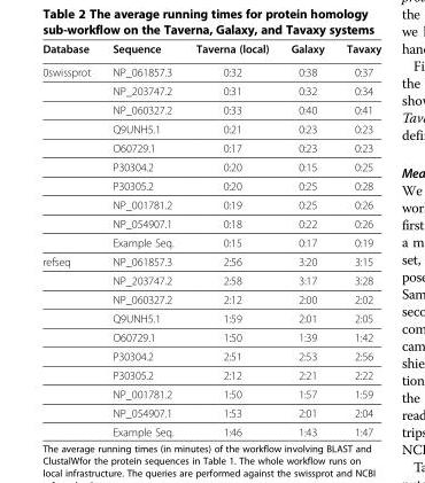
<table><thead><tr><td>Database</td><td>Sequence</td><td>Taverna (local)</td><td>Galaxy</td><td>Tavaxy</td></tr></thead><tbody><tr><td rowspan="10">0swissprot</td><td>NP_061857.3</td><td>0:32</td><td>0:38</td><td>0:37</td></tr><tr><td>NP_203747.2</td><td>0:31</td><td>0:32</td><td>0:34</td></tr><tr><td>NP_060327.2</td><td>0:33</td><td>0:40</td><td>0:41</td></tr><tr><td>Q9UNH5.1</td><td>0:21</td><td>0:23</td><td>0:23</td></tr><tr><td>O60729.1</td><td>0:17</td><td>0:23</td><td>0:23</td></tr><tr><td>P30304.2</td><td>0:20</td><td>0:15</td><td>0:25</td></tr><tr><td>P30305.2</td><td>0:20</td><td>0:25</td><td>0:28</td></tr><tr><td>NP_001781.2</td><td>0:19</td><td>0:25</td><td>0:26</td></tr><tr><td>NP_054907.1</td><td>0:18</td><td>0:22</td><td>0:26</td></tr><tr><td>Example Seq.</td><td>0:15</td><td>0:17</td><td>0:19</td></tr><tr><td rowspan="10">refseq</td><td>NP_061857.3</td><td>2:56</td><td>3:20</td><td>3:15</td></tr><tr><td>NP_203747.2</td><td>2:58</td><td>3:17</td><td>3:28</td></tr><tr><td>NP_060327.2</td><td>2:12</td><td>2:00</td><td>2:02</td></tr><tr><td>Q9UNH5.1</td><td>1:59</td><td>2:01</td><td>2:05</td></tr><tr><td>O60729.1</td><td>1:50</td><td>1:39</td><td>1:42</td></tr><tr><td>P30304.2</td><td>2:51</td><td>2:53</td><td>2:56</td></tr><tr><td>P30305.2</td><td>2:12</td><td>2:21</td><td>2:22</td></tr><tr><td>NP_001781.2</td><td>1:50</td><td>1:57</td><td>1:59</td></tr><tr><td>NP_054907.1</td><td>1:53</td><td>2:01</td><td>2:04</td></tr><tr><td>Example Seq.</td><td>1:46</td><td>1:43</td><td>1:47</td></tr></tbody></table>